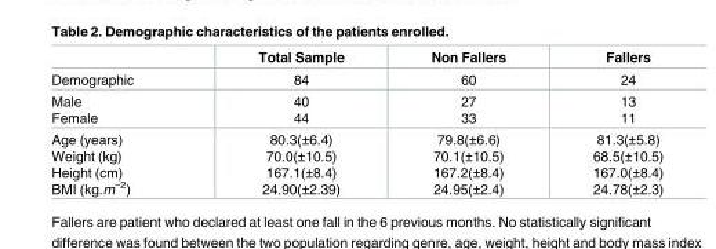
<table><thead><tr><td></td><td>Total Sample</td><td>Non Fallers</td><td>Fallers</td></tr></thead><tbody><tr><td>Demographic</td><td>84</td><td>60</td><td>24</td></tr><tr><td>Male Female</td><td>40 44</td><td>27 33</td><td>13 11</td></tr><tr><td>Age (years) Weight (kg) Height (cm) BMI (kg.m<sup>−2</sup>)</td><td>80.3(±6.4) 70.0(±10.5) 167.1(±8.4) 24.90(±2.39)</td><td>79.8(±6.6) 70.1(±10.5) 167.2(±8.4) 24.95(±2.4)</td><td>81.3(±5.8) 68.5(±10.5) 167.0(±8.4) 24.78(±2.3)</td></tr></tbody></table>